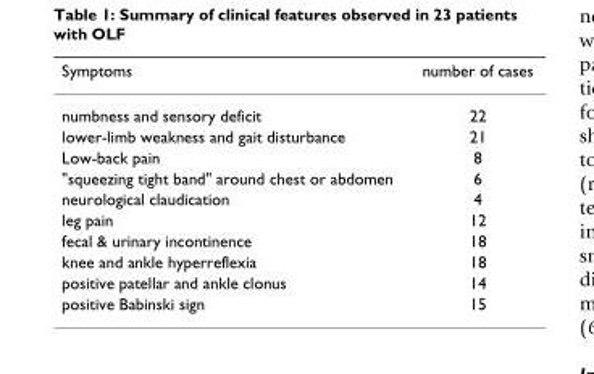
<table><thead><tr><td>Symptoms</td><td>number of cases</td></tr></thead><tbody><tr><td>numbness and sensory deficit</td><td>22</td></tr><tr><td>lower-limb weakness and gait disturbance</td><td>21</td></tr><tr><td>Low-back pain</td><td>8</td></tr><tr><td>&quot;squeezing tight band&quot; around chest or abdomen</td><td>6</td></tr><tr><td>neurological claudication</td><td>4</td></tr><tr><td>leg pain</td><td>12</td></tr><tr><td>fecal &amp; urinary incontinence</td><td>18</td></tr><tr><td>knee and ankle hyperreflexia</td><td>18</td></tr><tr><td>positive patellar and ankle clonus</td><td>14</td></tr><tr><td>positive Babinski sign</td><td>15</td></tr></tbody></table>